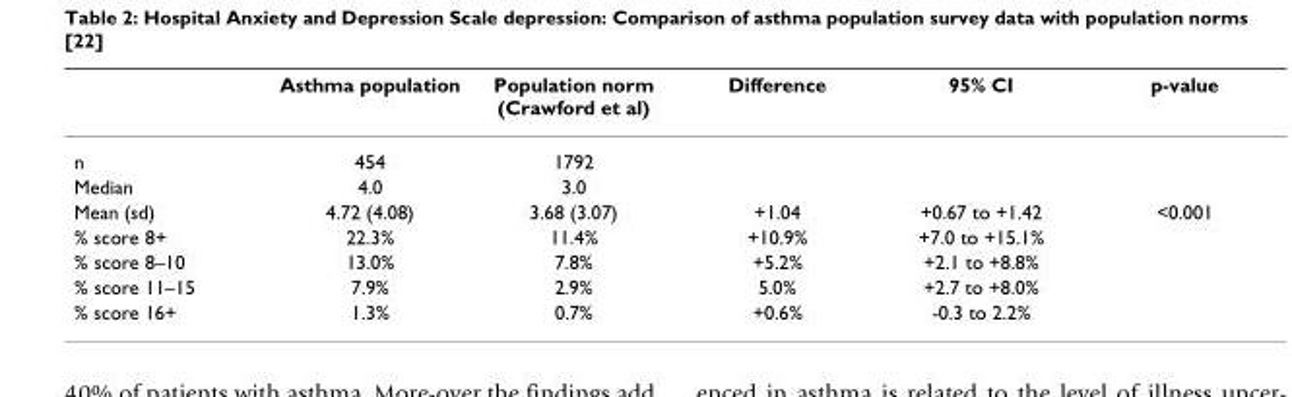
<table><thead><tr><td></td><td>Asthma population</td><td>Population norm (Crawford et al)</td><td>Difference</td><td>95% CI</td><td>p-value</td></tr></thead><tbody><tr><td>n</td><td>454</td><td>1792</td><td></td><td></td><td></td></tr><tr><td>Median</td><td>4.0</td><td>3.0</td><td></td><td></td><td></td></tr><tr><td>Mean (sd)</td><td>4.72 (4.08)</td><td>3.68 (3.07)</td><td>+1.04</td><td>+0.67 to +1.42</td><td>&lt;0.001</td></tr><tr><td>% score 8+</td><td>22.3%</td><td>11.4%</td><td>+10.9%</td><td>+7.0 to +15.1%</td><td></td></tr><tr><td>% score 8–10</td><td>13.0%</td><td>7.8%</td><td>+5.2%</td><td>+2.1 to +8.8%</td><td></td></tr><tr><td>% score 11–15</td><td>7.9%</td><td>2.9%</td><td>5.0%</td><td>+2.7 to +8.0%</td><td></td></tr><tr><td>% score 16+</td><td>1.3%</td><td>0.7%</td><td>+0.6%</td><td>-0.3 to 2.2%</td><td></td></tr></tbody></table>